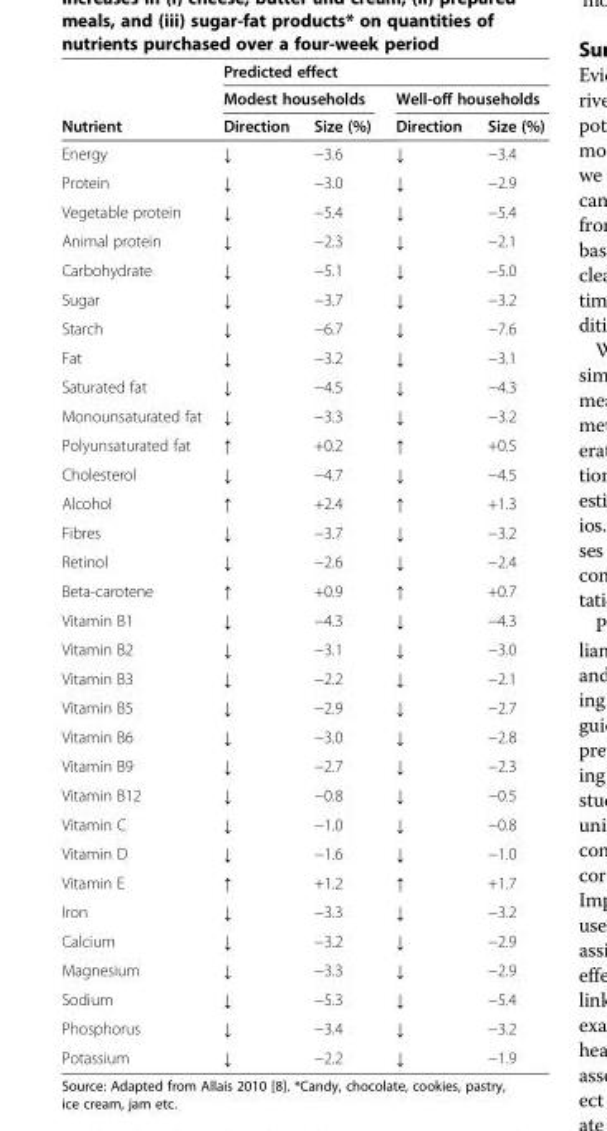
<table><thead><tr><td rowspan="3">Nutrient</td><td colspan="4">Predicted effect</td></tr><tr><td colspan="2">Modest households</td><td colspan="2">Well-off households</td></tr><tr><td>Direction</td><td>Size (%)</td><td>Direction</td><td>Size (%)</td></tr></thead><tbody><tr><td>Energy</td><td>↓</td><td>−3.6</td><td>↓</td><td>−3.4</td></tr><tr><td>Protein</td><td>↓</td><td>−3.0</td><td>↓</td><td>−2.9</td></tr><tr><td>Vegetable protein</td><td>↓</td><td>−5.4</td><td>↓</td><td>−5.4</td></tr><tr><td>Animal protein</td><td>↓</td><td>−2.3</td><td>↓</td><td>−2.1</td></tr><tr><td>Carbohydrate</td><td>↓</td><td>−5.1</td><td>↓</td><td>−5.0</td></tr><tr><td>Sugar</td><td>↓</td><td>−3.7</td><td>↓</td><td>−3.2</td></tr><tr><td>Starch</td><td>↓</td><td>−6.7</td><td>↓</td><td>−7.6</td></tr><tr><td>Fat</td><td>↓</td><td>−3.2</td><td>↓</td><td>−3.1</td></tr><tr><td>Saturated fat</td><td>↓</td><td>−4.5</td><td>↓</td><td>−4.3</td></tr><tr><td>Monounsaturated fat</td><td>↓</td><td>−3.3</td><td>↓</td><td>−3.2</td></tr><tr><td>Polyunsaturated fat</td><td>↑</td><td>+0.2</td><td>↑</td><td>+0.5</td></tr><tr><td>Cholesterol</td><td>↓</td><td>−4.7</td><td>↓</td><td>−4.5</td></tr><tr><td>Alcohol</td><td>↑</td><td>+2.4</td><td>↑</td><td>+1.3</td></tr><tr><td>Fibres</td><td>↓</td><td>−3.7</td><td>↓</td><td>−3.2</td></tr><tr><td>Retinol</td><td>↓</td><td>−2.6</td><td>↓</td><td>−2.4</td></tr><tr><td>Beta-carotene</td><td>↑</td><td>+0.9</td><td>↑</td><td>+0.7</td></tr><tr><td>Vitamin B1</td><td>↓</td><td>−4.3</td><td>↓</td><td>−4.3</td></tr><tr><td>Vitamin B2</td><td>↓</td><td>−3.1</td><td>↓</td><td>−3.0</td></tr><tr><td>Vitamin B3</td><td>↓</td><td>−2.2</td><td>↓</td><td>−2.1</td></tr><tr><td>Vitamin B5</td><td>↓</td><td>−2.9</td><td>↓</td><td>−2.7</td></tr><tr><td>Vitamin B6</td><td>↓</td><td>−3.0</td><td>↓</td><td>−2.8</td></tr><tr><td>Vitamin B9</td><td>↓</td><td>−2.7</td><td>↓</td><td>−2.3</td></tr><tr><td>Vitamin B12</td><td>↓</td><td>−0.8</td><td>↓</td><td>−0.5</td></tr><tr><td>Vitamin C</td><td>↓</td><td>−1.0</td><td>↓</td><td>−0.8</td></tr><tr><td>Vitamin D</td><td>↓</td><td>−1.6</td><td>↓</td><td>−1.0</td></tr><tr><td>Vitamin E</td><td>↑</td><td>+1.2</td><td>↑</td><td>+1.7</td></tr><tr><td>Iron</td><td>↓</td><td>−3.3</td><td>↓</td><td>−3.2</td></tr><tr><td>Calcium</td><td>↓</td><td>−3.2</td><td>↓</td><td>−2.9</td></tr><tr><td>Magnesium</td><td>↓</td><td>−3.3</td><td>↓</td><td>−2.9</td></tr><tr><td>Sodium</td><td>↓</td><td>−5.3</td><td>↓</td><td>−5.4</td></tr><tr><td>Phosphorus</td><td>↓</td><td>−3.4</td><td>↓</td><td>−3.2</td></tr><tr><td>Potassium</td><td>↓</td><td>−2.2</td><td>↓</td><td>−1.9</td></tr></tbody></table>